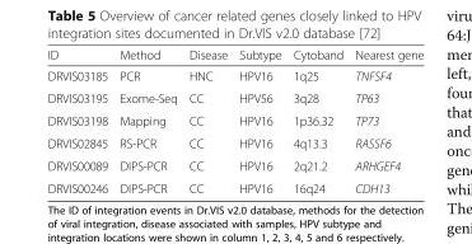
<table><thead><tr><td>ID</td><td>Method</td><td>Disease</td><td>Subtype</td><td>Cytoband</td><td>Nearest gene</td></tr></thead><tbody><tr><td>DRVIS03185</td><td>PCR</td><td>HNC</td><td>HPV16</td><td>1q25</td><td>TNFSF4</td></tr><tr><td>DRVIS03195</td><td>Exome-Seq</td><td>CC</td><td>HPV56</td><td>3q28</td><td>TP63</td></tr><tr><td>DRVIS03198</td><td>Mapping</td><td>CC</td><td>HPV16</td><td>1p36.32</td><td>TP73</td></tr><tr><td>DRVIS02845</td><td>RS-PCR</td><td>CC</td><td>HPV16</td><td>4q13.3</td><td>RASSF6</td></tr><tr><td>DRVIS00089</td><td>DIPS-PCR</td><td>CC</td><td>HPV16</td><td>2q21.2</td><td>ARHGEF4</td></tr><tr><td>DRVIS00246</td><td>DIPS-PCR</td><td>CC</td><td>HPV16</td><td>16q24</td><td>CDH13</td></tr></tbody></table>